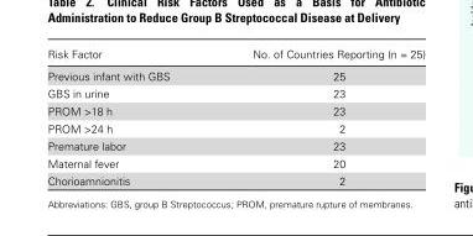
<table><thead><tr><td>Risk Factor</td><td>No. of Countries Reporting (n = 25)</td></tr></thead><tbody><tr><td>Previous infant with GBS</td><td>25</td></tr><tr><td>GBS in urine</td><td>23</td></tr><tr><td>PROM &gt;18 h</td><td>23</td></tr><tr><td>PROM &gt;24 h</td><td>2</td></tr><tr><td>Premature labor</td><td>23</td></tr><tr><td>Maternal fever</td><td>20</td></tr><tr><td>Chorioamnionitis</td><td>2</td></tr></tbody></table>